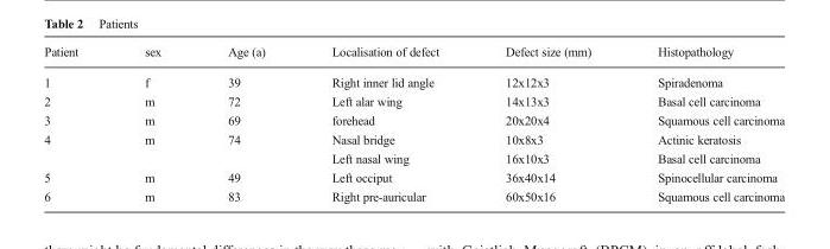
<table><thead><tr><td>Patient</td><td>sex</td><td>Age (a)</td><td>Localisation of defect</td><td>Defect size (mm)</td><td>Histopathology</td></tr></thead><tbody><tr><td>1</td><td>f</td><td>39</td><td>Right inner lid angle</td><td>12x12x3</td><td>Spiradenoma</td></tr><tr><td>2</td><td>m</td><td>72</td><td>Left alar wing</td><td>14x13x3</td><td>Basal cell carcinoma</td></tr><tr><td>3</td><td>m</td><td>69</td><td>forehead</td><td>20x20x4</td><td>Squamous cell carcinoma</td></tr><tr><td rowspan="2">4</td><td rowspan="2">m</td><td rowspan="2">74</td><td>Nasal bridge</td><td>10x8x3</td><td>Actinic keratosis</td></tr><tr><td>Left nasal wing</td><td>16x10x3</td><td>Basal cell carcinoma</td></tr><tr><td>5</td><td>m</td><td>49</td><td>Left occiput</td><td>36x40x14</td><td>Spinocellular carcinoma</td></tr><tr><td>6</td><td>m</td><td>83</td><td>Right pre-auricular</td><td>60x50x16</td><td>Squamous cell carcinoma</td></tr></tbody></table>